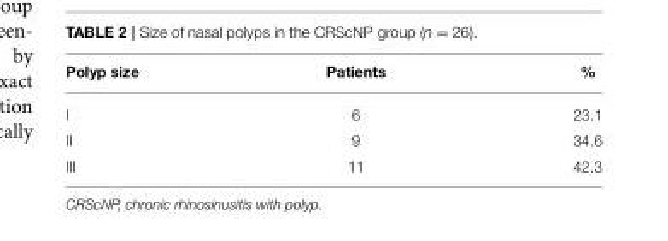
<table><thead><tr><td>Polyp size</td><td>Patients</td><td>%</td></tr></thead><tbody><tr><td>I</td><td>6</td><td>23.1</td></tr><tr><td>II</td><td>9</td><td>34.6</td></tr><tr><td>III</td><td>11</td><td>42.3</td></tr></tbody></table>